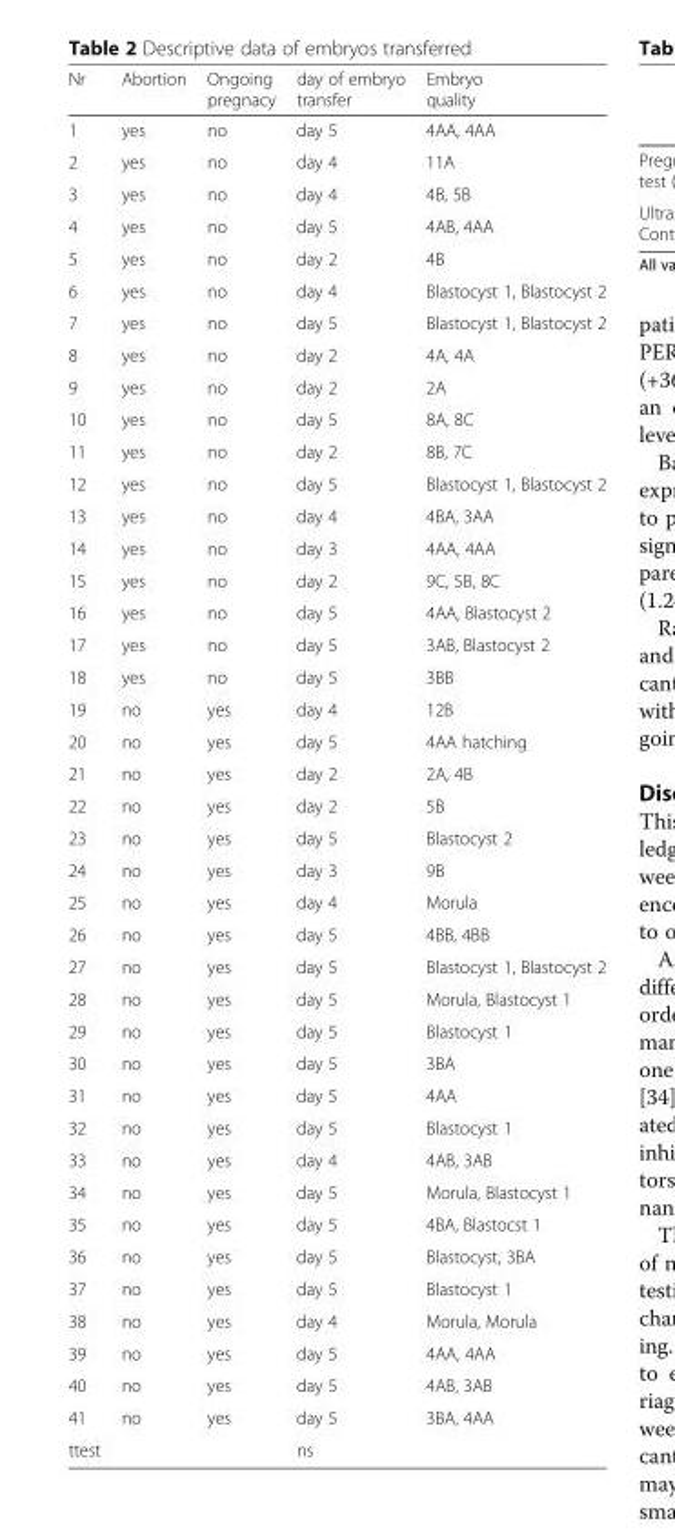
<table><thead><tr><td>Nr</td><td>Abortion</td><td>Ongoing pregnacy</td><td>day of embryo transfer</td><td>Embryo quality</td></tr></thead><tbody><tr><td>1</td><td>yes</td><td>no</td><td>day 5</td><td>4AA, 4AA</td></tr><tr><td>2</td><td>yes</td><td>no</td><td>day 4</td><td>11A</td></tr><tr><td>3</td><td>yes</td><td>no</td><td>day 4</td><td>4B, 5B</td></tr><tr><td>4</td><td>yes</td><td>no</td><td>day 5</td><td>4AB, 4AA</td></tr><tr><td>5</td><td>yes</td><td>no</td><td>day 2</td><td>4B</td></tr><tr><td>6</td><td>yes</td><td>no</td><td>day 4</td><td>Blastocyst 1, Blastocyst 2</td></tr><tr><td>7</td><td>yes</td><td>no</td><td>day 5</td><td>Blastocyst 1, Blastocyst 2</td></tr><tr><td>8</td><td>yes</td><td>no</td><td>day 2</td><td>4A, 4A</td></tr><tr><td>9</td><td>yes</td><td>no</td><td>day 2</td><td>2A</td></tr><tr><td>10</td><td>yes</td><td>no</td><td>day 5</td><td>8A, 8C</td></tr><tr><td>11</td><td>yes</td><td>no</td><td>day 2</td><td>8B, 7C</td></tr><tr><td>12</td><td>yes</td><td>no</td><td>day 5</td><td>Blastocyst 1, Blastocyst 2</td></tr><tr><td>13</td><td>yes</td><td>no</td><td>day 4</td><td>4BA, 3AA</td></tr><tr><td>14</td><td>yes</td><td>no</td><td>day 3</td><td>4AA, 4AA</td></tr><tr><td>15</td><td>yes</td><td>no</td><td>day 2</td><td>9C, 5B, 8C</td></tr><tr><td>16</td><td>yes</td><td>no</td><td>day 5</td><td>4AA, Blastocyst 2</td></tr><tr><td>17</td><td>yes</td><td>no</td><td>day 5</td><td>3AB, Blastocyst 2</td></tr><tr><td>18</td><td>yes</td><td>no</td><td>day 5</td><td>3BB</td></tr><tr><td>19</td><td>no</td><td>yes</td><td>day 4</td><td>12B</td></tr><tr><td>20</td><td>no</td><td>yes</td><td>day 5</td><td>4AA hatching</td></tr><tr><td>21</td><td>no</td><td>yes</td><td>day 2</td><td>2A, 4B</td></tr><tr><td>22</td><td>no</td><td>yes</td><td>day 2</td><td>5B</td></tr><tr><td>23</td><td>no</td><td>yes</td><td>day 5</td><td>Blastocyst 2</td></tr><tr><td>24</td><td>no</td><td>yes</td><td>day 3</td><td>9B</td></tr><tr><td>25</td><td>no</td><td>yes</td><td>day 4</td><td>Morula</td></tr><tr><td>26</td><td>no</td><td>yes</td><td>day 5</td><td>4BB, 4BB</td></tr><tr><td>27</td><td>no</td><td>yes</td><td>day 5</td><td>Blastocyst 1, Blastocyst 2</td></tr><tr><td>28</td><td>no</td><td>yes</td><td>day 5</td><td>Morula, Blastocyst 1</td></tr><tr><td>29</td><td>no</td><td>yes</td><td>day 5</td><td>Blastocyst 1</td></tr><tr><td>30</td><td>no</td><td>yes</td><td>day 5</td><td>3BA</td></tr><tr><td>31</td><td>no</td><td>yes</td><td>day 5</td><td>4AA</td></tr><tr><td>32</td><td>no</td><td>yes</td><td>day 5</td><td>Blastocyst 1</td></tr><tr><td>33</td><td>no</td><td>yes</td><td>day 4</td><td>4AB, 3AB</td></tr><tr><td>34</td><td>no</td><td>yes</td><td>day 5</td><td>Morula, Blastocyst 1</td></tr><tr><td>35</td><td>no</td><td>yes</td><td>day 5</td><td>4BA, Blastocst 1</td></tr><tr><td>36</td><td>no</td><td>yes</td><td>day 5</td><td>Blastocyst, 3BA</td></tr><tr><td>37</td><td>no</td><td>yes</td><td>day 5</td><td>Blastocyst 1</td></tr><tr><td>38</td><td>no</td><td>yes</td><td>day 4</td><td>Morula, Morula</td></tr><tr><td>39</td><td>no</td><td>yes</td><td>day 5</td><td>4AA, 4AA</td></tr><tr><td>40</td><td>no</td><td>yes</td><td>day 5</td><td>4AB, 3AB</td></tr><tr><td>41</td><td>no</td><td>yes</td><td>day 5</td><td>3BA, 4AA</td></tr><tr><td>ttest</td><td></td><td></td><td>ns</td><td></td></tr></tbody></table>